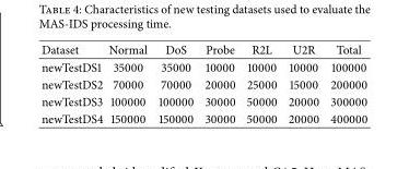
<table><thead><tr><td>Dataset</td><td>Normal</td><td>DoS</td><td>Probe</td><td>R2L</td><td>U2R</td><td>Total</td></tr></thead><tbody><tr><td>newTestDS1</td><td>35000</td><td>35000</td><td>10000</td><td>10000</td><td>10000</td><td>100000</td></tr><tr><td>newTestDS2</td><td>70000</td><td>70000</td><td>20000</td><td>25000</td><td>15000</td><td>200000</td></tr><tr><td>newTestDS3</td><td>100000</td><td>100000</td><td>30000</td><td>50000</td><td>20000</td><td>300000</td></tr><tr><td>newTestDS4</td><td>150000</td><td>150000</td><td>30000</td><td>50000</td><td>20000</td><td>400000</td></tr></tbody></table>